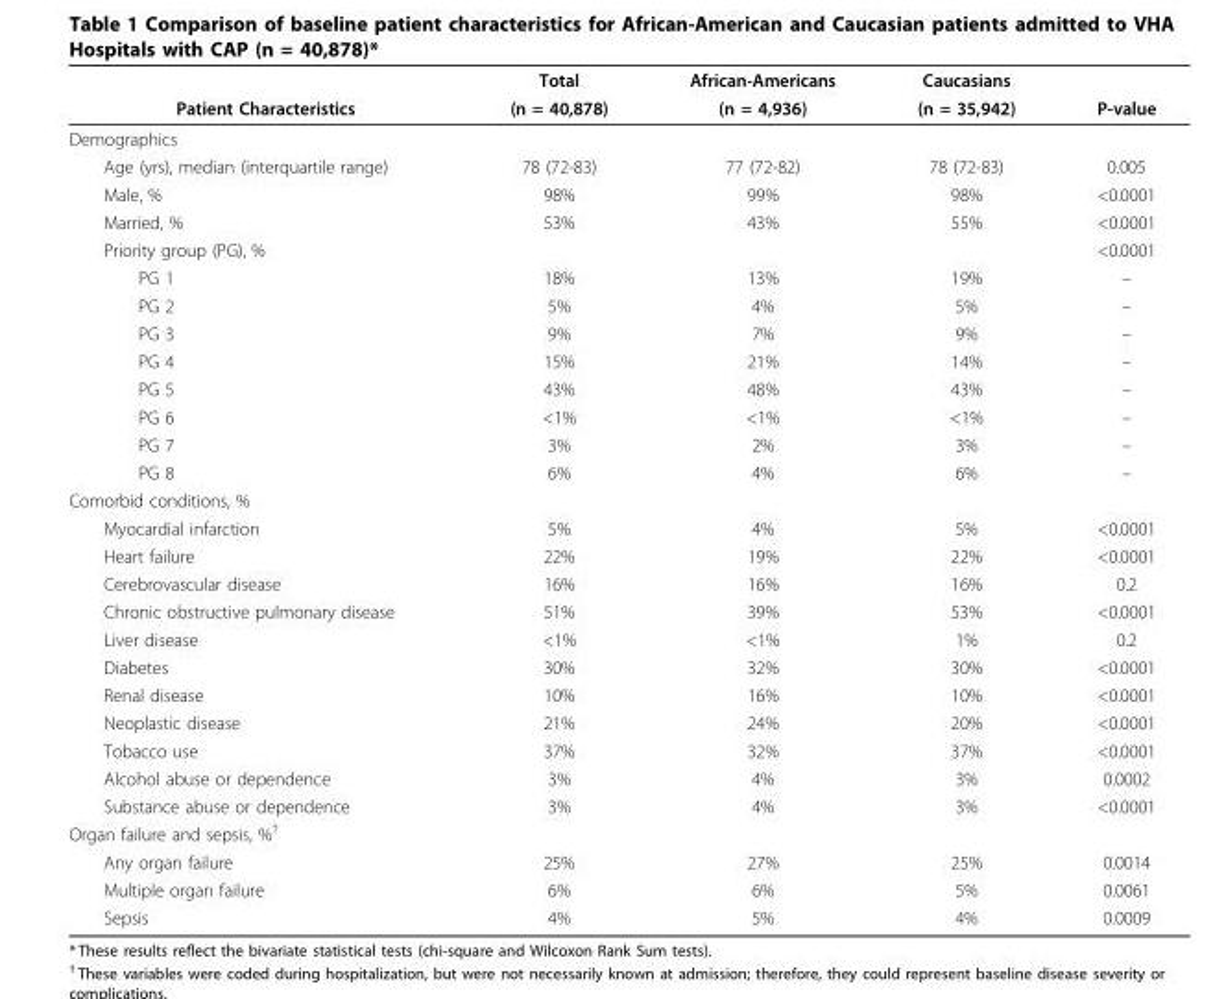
<table><thead><tr><td rowspan="2">Patient Characteristics</td><td rowspan="2">Total (n = 40,878)</td><td rowspan="2">African-Americans (n = 4,936)</td><td rowspan="2">Caucasians (n = 35,942)</td><td rowspan="2">P-value</td></tr><tr></tr></thead><tbody><tr><td colspan="5">Demographics</td></tr><tr><td>Age (yrs), median (interquartile range)</td><td>78 (72-83)</td><td>77 (72-82)</td><td>78 (72-83)</td><td>0.005</td></tr><tr><td>Male, %</td><td>98%</td><td>99%</td><td>98%</td><td>&lt;0.0001</td></tr><tr><td>Married, %</td><td>53%</td><td>43%</td><td>55%</td><td>&lt;0.0001</td></tr><tr><td>Priority group (PG), %</td><td></td><td></td><td></td><td>&lt;0.0001</td></tr><tr><td>PG 1</td><td>18%</td><td>13%</td><td>19%</td><td>–</td></tr><tr><td>PG 2</td><td>5%</td><td>4%</td><td>5%</td><td>–</td></tr><tr><td>PG 3</td><td>9%</td><td>7%</td><td>9%</td><td>–</td></tr><tr><td>PG 4</td><td>15%</td><td>21%</td><td>14%</td><td>–</td></tr><tr><td>PG 5</td><td>43%</td><td>48%</td><td>43%</td><td>–</td></tr><tr><td>PG 6</td><td>&lt;1%</td><td>&lt;1%</td><td>&lt;1%</td><td>–</td></tr><tr><td>PG 7</td><td>3%</td><td>2%</td><td>3%</td><td>–</td></tr><tr><td>PG 8</td><td>6%</td><td>4%</td><td>6%</td><td>–</td></tr><tr><td colspan="5">Comorbid conditions, %</td></tr><tr><td>Myocardial infarction</td><td>5%</td><td>4%</td><td>5%</td><td>&lt;0.0001</td></tr><tr><td>Heart failure</td><td>22%</td><td>19%</td><td>22%</td><td>&lt;0.0001</td></tr><tr><td>Cerebrovascular disease</td><td>16%</td><td>16%</td><td>16%</td><td>0.2</td></tr><tr><td>Chronic obstructive pulmonary disease</td><td>51%</td><td>39%</td><td>53%</td><td>&lt;0.0001</td></tr><tr><td>Liver disease</td><td>&lt;1%</td><td>&lt;1%</td><td>1%</td><td>0.2</td></tr><tr><td>Diabetes</td><td>30%</td><td>32%</td><td>30%</td><td>&lt;0.0001</td></tr><tr><td>Renal disease</td><td>10%</td><td>16%</td><td>10%</td><td>&lt;0.0001</td></tr><tr><td>Neoplastic disease</td><td>21%</td><td>24%</td><td>20%</td><td>&lt;0.0001</td></tr><tr><td>Tobacco use</td><td>37%</td><td>32%</td><td>37%</td><td>&lt;0.0001</td></tr><tr><td>Alcohol abuse or dependence</td><td>3%</td><td>4%</td><td>3%</td><td>0.0002</td></tr><tr><td>Substance abuse or dependence</td><td>3%</td><td>4%</td><td>3%</td><td>&lt;0.0001</td></tr><tr><td colspan="5">Organ failure and sepsis, %<sup>†</sup></td></tr><tr><td>Any organ failure</td><td>25%</td><td>27%</td><td>25%</td><td>0.0014</td></tr><tr><td>Multiple organ failure</td><td>6%</td><td>6%</td><td>5%</td><td>0.0061</td></tr><tr><td>Sepsis</td><td>4%</td><td>5%</td><td>4%</td><td>0.0009</td></tr></tbody></table>